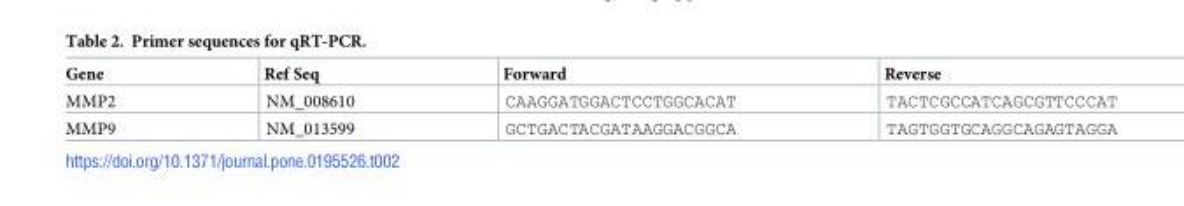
<table><thead><tr><td>Gene</td><td>Ref Seq</td><td>Forward</td><td>Reverse</td></tr></thead><tbody><tr><td>MMP2</td><td>NM_008610</td><td>CAAGGATGGACTCCTGGCACAT</td><td>TACTCGCCATCAGCGTTCCCAT</td></tr><tr><td>MMP9</td><td>NM_013599</td><td>GCTGACTACGATAAGGACGGCA</td><td>TAGTGGTGCAGGCAGAGTAGGA</td></tr></tbody></table>